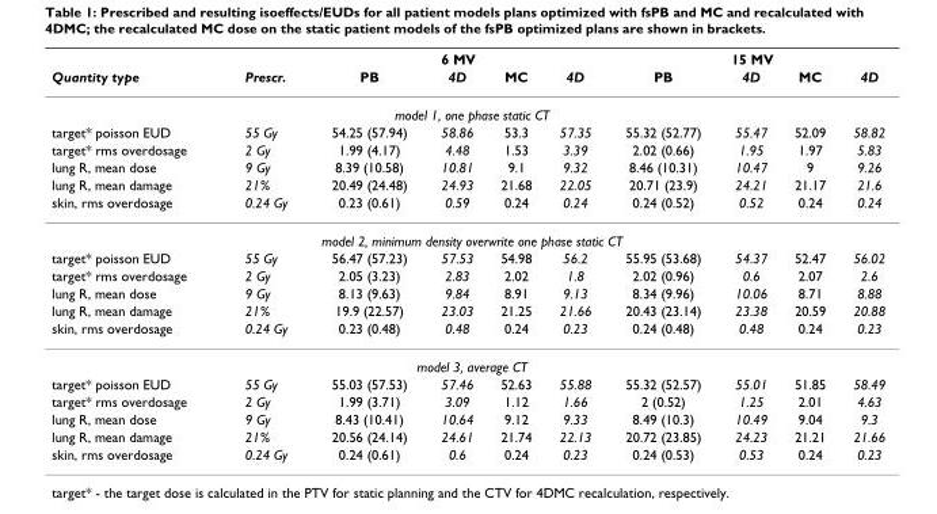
<table><thead><tr><td rowspan="2">Quantity type</td><td rowspan="2">Prescr.</td><td colspan="4">6 MV</td><td colspan="4">15 MV</td></tr><tr><td>PB</td><td>4D</td><td>MC</td><td>4D</td><td>PB</td><td>4D</td><td>MC</td><td>4D</td></tr></thead><tbody><tr><td colspan="10">model 1, one phase static CT</td></tr><tr><td>target* poisson EUD</td><td>55 Gy</td><td>54.25 (57.94)</td><td>58.86</td><td>53.3</td><td>57.35</td><td>55.32 (52.77)</td><td>55.47</td><td>52.09</td><td>58.82</td></tr><tr><td>target* rms overdosage</td><td>2 Gy</td><td>1.99 (4.17)</td><td>4.48</td><td>1.53</td><td>3.39</td><td>2.02 (0.66)</td><td>1.95</td><td>1.97</td><td>5.83</td></tr><tr><td>lung R, mean dose</td><td>9 Gy</td><td>8.39 (10.58)</td><td>10.81</td><td>9.1</td><td>9.32</td><td>8.46 (10.31)</td><td>10.47</td><td>9</td><td>9.26</td></tr><tr><td>lung R, mean damage</td><td>21%</td><td>20.49 (24.48)</td><td>24.93</td><td>21.68</td><td>22.05</td><td>20.71 (23.9)</td><td>24.21</td><td>21.17</td><td>21.6</td></tr><tr><td>skin, rms overdosage</td><td>0.24 Gy</td><td>0.23 (0.61)</td><td>0.59</td><td>0.24</td><td>0.24</td><td>0.24 (0.52)</td><td>0.52</td><td>0.24</td><td>0.24</td></tr><tr><td colspan="10">model 2, minimum density overwrite one phase static CT</td></tr><tr><td>target* poisson EUD</td><td>55 Gy</td><td>56.47 (57.23)</td><td>57.53</td><td>54.98</td><td>56.2</td><td>55.95 (53.68)</td><td>54.37</td><td>52.47</td><td>56.02</td></tr><tr><td>target* rms overdosage</td><td>2 Gy</td><td>2.05 (3.23)</td><td>2.83</td><td>2.02</td><td>1.8</td><td>2.02 (0.96)</td><td>0.6</td><td>2.07</td><td>2.6</td></tr><tr><td>lung R, mean dose</td><td>9 Gy</td><td>8.13 (9.63)</td><td>9.84</td><td>8.91</td><td>9.13</td><td>8.34 (9.96)</td><td>10.06</td><td>8.71</td><td>8.88</td></tr><tr><td>lung R, mean damage</td><td>21%</td><td>19.9 (22.57)</td><td>23.03</td><td>21.25</td><td>21.66</td><td>20.43 (23.14)</td><td>23.38</td><td>20.59</td><td>20.88</td></tr><tr><td>skin, rms overdosage</td><td>0.24 Gy</td><td>0.23 (0.48)</td><td>0.48</td><td>0.24</td><td>0.23</td><td>0.24 (0.48)</td><td>0.48</td><td>0.24</td><td>0.23</td></tr><tr><td colspan="10">model 3, average CT</td></tr><tr><td>target* poisson EUD</td><td>55 Gy</td><td>55.03 (57.53)</td><td>57.46</td><td>52.63</td><td>55.88</td><td>55.32 (52.57)</td><td>55.01</td><td>51.85</td><td>58.49</td></tr><tr><td>target* rms overdosage</td><td>2 Gy</td><td>1.99 (3.71)</td><td>3.09</td><td>1.12</td><td>1.66</td><td>2 (0.52)</td><td>1.25</td><td>2.01</td><td>4.63</td></tr><tr><td>lung R, mean dose</td><td>9 Gy</td><td>8.43 (10.41)</td><td>10.64</td><td>9.12</td><td>9.33</td><td>8.49 (10.3)</td><td>10.49</td><td>9.04</td><td>9.3</td></tr><tr><td>lung R, mean damage</td><td>21%</td><td>20.56 (24.14)</td><td>24.61</td><td>21.74</td><td>22.13</td><td>20.72 (23.85)</td><td>24.23</td><td>21.21</td><td>21.66</td></tr><tr><td>skin, rms overdosage</td><td>0.24 Gy</td><td>0.24 (0.61)</td><td>0.6</td><td>0.24</td><td>0.23</td><td>0.24 (0.53)</td><td>0.53</td><td>0.24</td><td>0.23</td></tr></tbody></table>